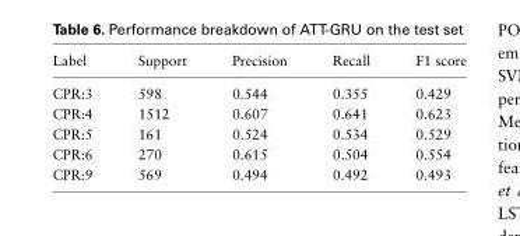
<table><thead><tr><td>Label</td><td>Support</td><td>Precision</td><td>Recall</td><td>F1 score</td></tr></thead><tbody><tr><td>CPR:3</td><td>598</td><td>0.544</td><td>0.355</td><td>0.429</td></tr><tr><td>CPR:4</td><td>1512</td><td>0.607</td><td>0.641</td><td>0.623</td></tr><tr><td>CPR:5</td><td>161</td><td>0.524</td><td>0.534</td><td>0.529</td></tr><tr><td>CPR:6</td><td>270</td><td>0.615</td><td>0.504</td><td>0.554</td></tr><tr><td>CPR:9</td><td>569</td><td>0.494</td><td>0.492</td><td>0.493</td></tr></tbody></table>